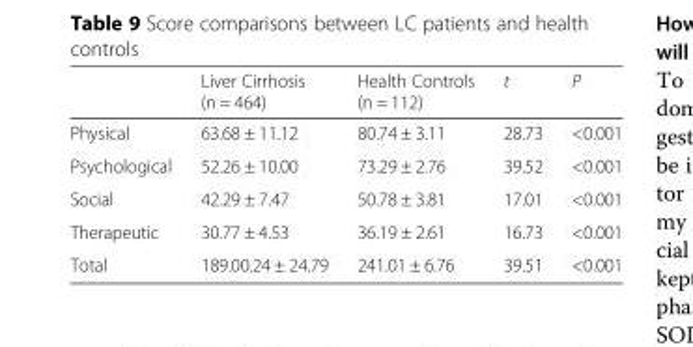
<table><thead><tr><td></td><td>Liver Cirrhosis (n = 464)</td><td>Health Controls (n = 112)</td><td>t</td><td>P</td></tr></thead><tbody><tr><td>Physical</td><td>63.68 ± 11.12</td><td>80.74 ± 3.11</td><td>28.73</td><td>&lt;0.001</td></tr><tr><td>Psychological</td><td>52.26 ± 10.00</td><td>73.29 ± 2.76</td><td>39.52</td><td>&lt;0.001</td></tr><tr><td>Social</td><td>42.29 ± 7.47</td><td>50.78 ± 3.81</td><td>17.01</td><td>&lt;0.001</td></tr><tr><td>Therapeutic</td><td>30.77 ± 4.53</td><td>36.19 ± 2.61</td><td>16.73</td><td>&lt;0.001</td></tr><tr><td>Total</td><td>189.00.24 ± 24.79</td><td>241.01 ± 6.76</td><td>39.51</td><td>&lt;0.001</td></tr></tbody></table>